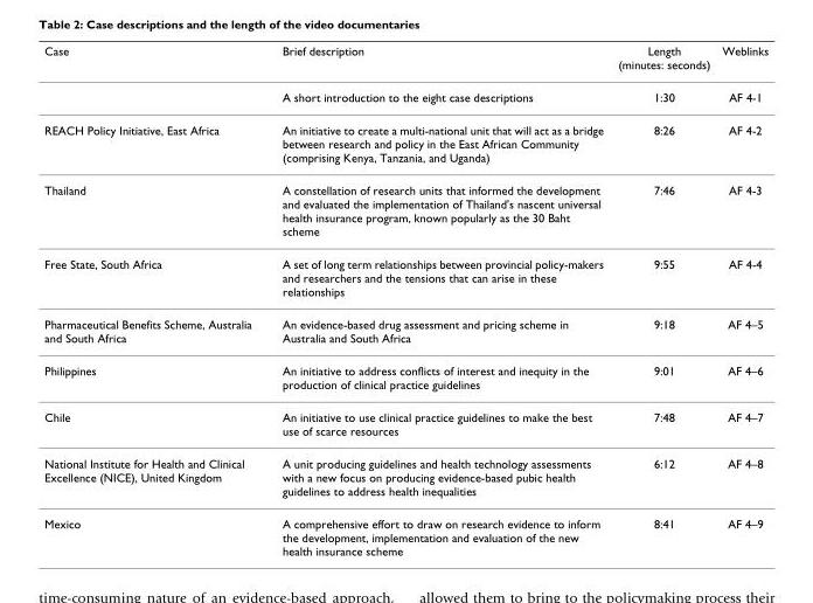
<table><thead><tr><td>Case</td><td>Brief description</td><td>Length (minutes: seconds)</td><td>Weblinks</td></tr></thead><tbody><tr><td></td><td>A short introduction to the eight case descriptions</td><td>1:30</td><td>AF 4-1</td></tr><tr><td>REACH Policy Initiative, East Africa</td><td>An initiative to create a multi-national unit that will act as a bridge between research and policy in the East African Community (comprising Kenya, Tanzania, and Uganda)</td><td>8:26</td><td>AF 4-2</td></tr><tr><td>Thailand</td><td>A constellation of research units that informed the development and evaluated the implementation of Thailand&#x27;s nascent universal health insurance program, known popularly as the 30 Baht scheme</td><td>7:46</td><td>AF 4-3</td></tr><tr><td>Free State, South Africa</td><td>A set of long term relationships between provincial policy-makers and researchers and the tensions that can arise in these relationships</td><td>9:55</td><td>AF 4-4</td></tr><tr><td>Pharmaceutical Benefits Scheme, Australia and South Africa</td><td>An evidence-based drug assessment and pricing scheme in Australia and South Africa</td><td>9:18</td><td>AF 4–5</td></tr><tr><td>Philippines</td><td>An initiative to address conflicts of interest and inequity in the production of clinical practice guidelines</td><td>9:01</td><td>AF 4–6</td></tr><tr><td>Chile</td><td>An initiative to use clinical practice guidelines to make the best use of scarce resources</td><td>7:48</td><td>AF 4–7</td></tr><tr><td>National Institute for Health and Clinical Excellence (NICE), United Kingdom</td><td>A unit producing guidelines and health technology assessments with a new focus on producing evidence-based pubic health guidelines to address health inequalities</td><td>6:12</td><td>AF 4–8</td></tr><tr><td>Mexico</td><td>A comprehensive effort to draw on research evidence to inform the development, implementation and evaluation of the new health insurance scheme</td><td>8:41</td><td>AF 4–9</td></tr></tbody></table>